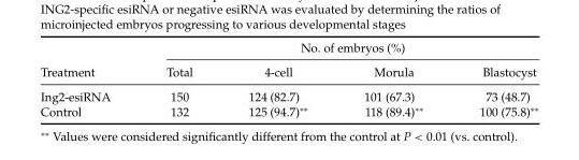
<table><thead><tr><td rowspan="2">Treatment</td><td colspan="4">No. of embryos (%)</td></tr><tr><td>Total</td><td>4-cell</td><td>Morula</td><td>Blastocyst</td></tr></thead><tbody><tr><td>Ing2-esiRNA</td><td>150</td><td>124 (82.7)</td><td>101 (67.3)</td><td>73 (48.7)</td></tr><tr><td>Control</td><td>132</td><td>125 (94.7)∗∗</td><td>118 (89.4)∗∗</td><td>100 (75.8)∗∗</td></tr></tbody></table>